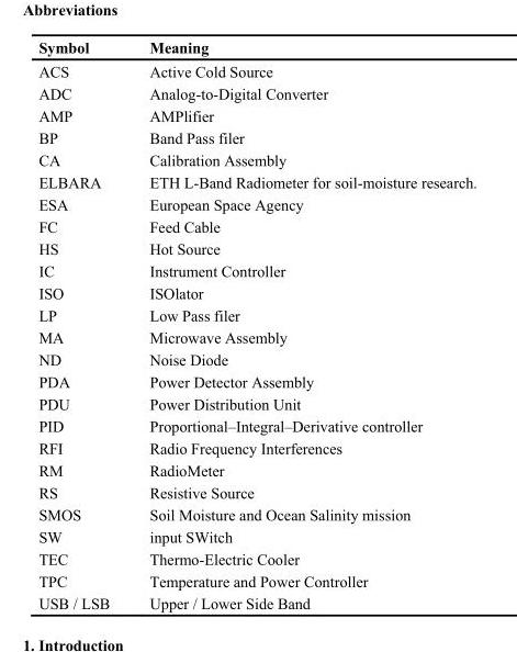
<table><thead><tr><td>Symbol</td><td>Meaning</td></tr></thead><tbody><tr><td>ACS</td><td>Active Cold Source</td></tr><tr><td>ADC</td><td>Analog-to-Digital Converter</td></tr><tr><td>AMP</td><td>AMPlifier</td></tr><tr><td>BP</td><td>Band Pass filer</td></tr><tr><td>CA</td><td>Calibration Assembly</td></tr><tr><td>ELBARA</td><td>ETH L-Band Radiometer for soil-moisture research.</td></tr><tr><td>ESA</td><td>European Space Agency</td></tr><tr><td>FC</td><td>Feed Cable</td></tr><tr><td>HS</td><td>Hot Source</td></tr><tr><td>IC</td><td>Instrument Controller</td></tr><tr><td>ISO</td><td>ISOlator</td></tr><tr><td>LP</td><td>Low Pass filer</td></tr><tr><td>MA</td><td>Microwave Assembly</td></tr><tr><td>ND</td><td>Noise Diode</td></tr><tr><td>PDA</td><td>Power Detector Assembly</td></tr><tr><td>PDU</td><td>Power Distribution Unit</td></tr><tr><td>PID</td><td>Proportional–Integral–Derivative controller</td></tr><tr><td>RFI</td><td>Radio Frequency Interferences</td></tr><tr><td>RM</td><td>RadioMeter</td></tr><tr><td>RS</td><td>Resistive Source</td></tr><tr><td>SMOS</td><td>Soil Moisture and Ocean Salinity mission</td></tr><tr><td>SW</td><td>input SWitch</td></tr><tr><td>TEC</td><td>Thermo-Electric Cooler</td></tr><tr><td>TPC</td><td>Temperature and Power Controller</td></tr><tr><td>USB / LSB</td><td>Upper / Lower Side Band</td></tr></tbody></table>